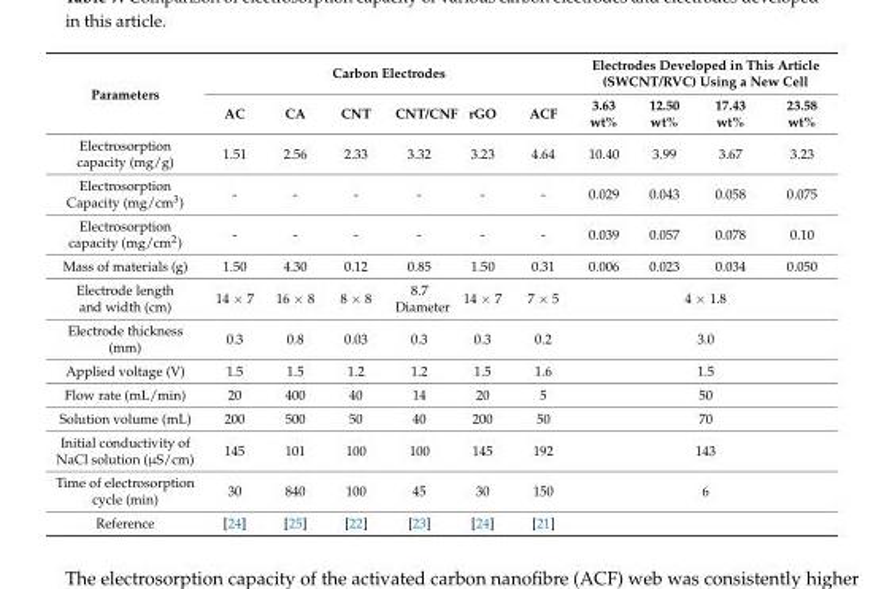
<table><thead><tr><td rowspan="2">Parameters</td><td colspan="6">Carbon Electrodes</td><td colspan="4">Electrodes Developed in This Article (SWCNT/RVC) Using a New Cell</td></tr><tr><td>AC</td><td>CA</td><td>CNT</td><td>CNT/CNF</td><td>rGO</td><td>ACF</td><td>3.63 wt%</td><td>12.50 wt%</td><td>17.43 wt%</td><td>23.58 wt%</td></tr></thead><tbody><tr><td>Electrosorption capacity (mg/g)</td><td>1.51</td><td>2.56</td><td>2.33</td><td>3.32</td><td>3.23</td><td>4.64</td><td>10.40</td><td>3.99</td><td>3.67</td><td>3.23</td></tr><tr><td>Electrosorption Capacity (mg/cm<sup>3</sup>)</td><td>-</td><td>-</td><td>-</td><td>-</td><td>-</td><td>-</td><td>0.029</td><td>0.043</td><td>0.058</td><td>0.075</td></tr><tr><td>Electrosorption capacity (mg/cm<sup>2</sup>)</td><td>-</td><td>-</td><td>-</td><td>-</td><td>-</td><td>-</td><td>0.039</td><td>0.057</td><td>0.078</td><td>0.10</td></tr><tr><td>Mass of materials (g)</td><td>1.50</td><td>4.30</td><td>0.12</td><td>0.85</td><td>1.50</td><td>0.31</td><td>0.006</td><td>0.023</td><td>0.034</td><td>0.050</td></tr><tr><td>Electrode length and width (cm)</td><td>14 × 7</td><td>16 × 8</td><td>8 × 8</td><td>8.7 Diameter</td><td>14 × 7</td><td>7 × 5</td><td colspan="4">4 × 1.8</td></tr><tr><td>Electrode thickness (mm)</td><td>0.3</td><td>0.8</td><td>0.03</td><td>0.3</td><td>0.3</td><td>0.2</td><td colspan="4">3.0</td></tr><tr><td>Applied voltage (V)</td><td>1.5</td><td>1.5</td><td>1.2</td><td>1.2</td><td>1.5</td><td>1.6</td><td colspan="4">1.5</td></tr><tr><td>Flow rate (mL/min)</td><td>20</td><td>400</td><td>40</td><td>14</td><td>20</td><td>5</td><td colspan="4">50</td></tr><tr><td>Solution volume (mL)</td><td>200</td><td>500</td><td>50</td><td>40</td><td>200</td><td>50</td><td colspan="4">70</td></tr><tr><td>Initial conductivity of NaCl solution (µS/cm)</td><td>145</td><td>101</td><td>100</td><td>100</td><td>145</td><td>192</td><td colspan="4">143</td></tr><tr><td>Time of electrosorption cycle (min)</td><td>30</td><td>840</td><td>100</td><td>45</td><td>30</td><td>150</td><td colspan="4">6</td></tr><tr><td>Reference</td><td>[24]</td><td>[25]</td><td>[22]</td><td>[23]</td><td>[24]</td><td>[21]</td><td colspan="4"></td></tr></tbody></table>